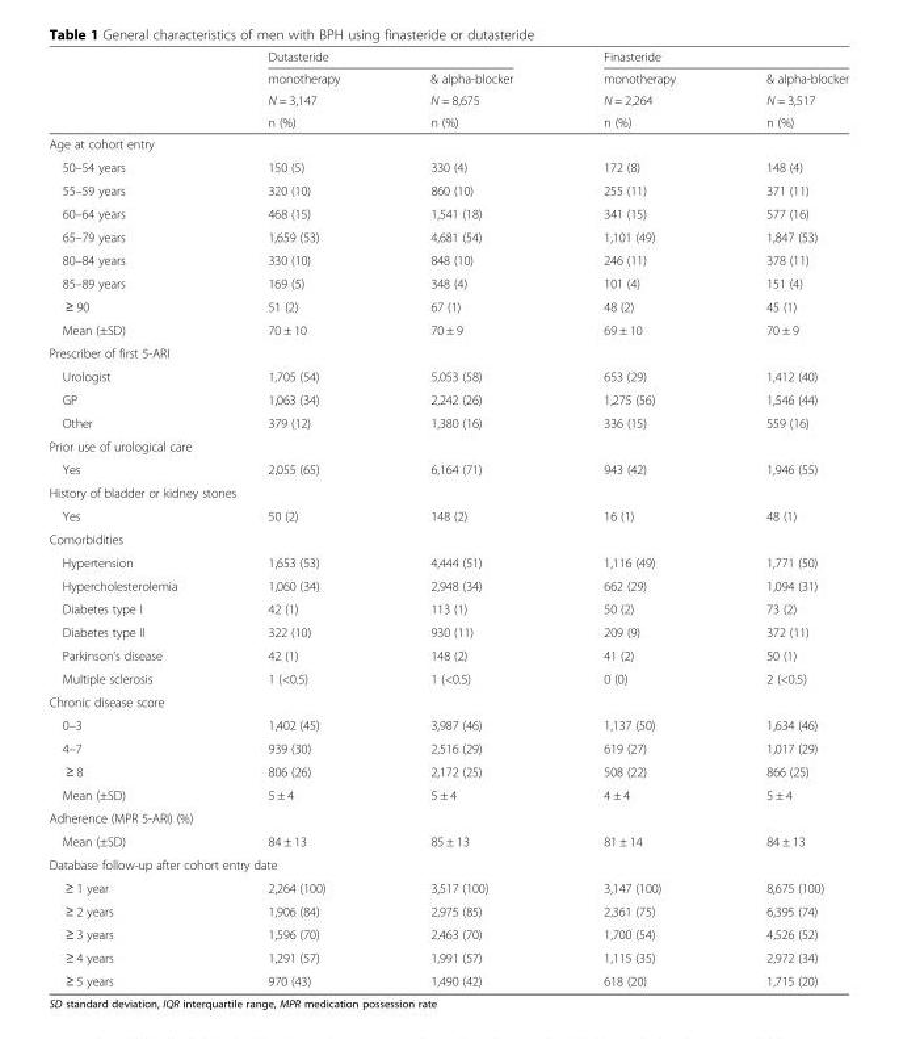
<table><thead><tr><td rowspan="4"></td><td colspan="2">Dutasteride</td><td colspan="2">Finasteride</td></tr><tr><td rowspan="3">monotherapy N = 3,147 n (%)</td><td rowspan="3">&amp; alpha-blocker N = 8,675 n (%)</td><td rowspan="3">monotherapy N = 2,264 n (%)</td><td rowspan="3">&amp; alpha-blocker N = 3,517 n (%)</td></tr><tr></tr><tr></tr></thead><tbody><tr><td colspan="5">Age at cohort entry</td></tr><tr><td>50–54 years</td><td>150 (5)</td><td>330 (4)</td><td>172 (8)</td><td>148 (4)</td></tr><tr><td>55–59 years</td><td>320 (10)</td><td>860 (10)</td><td>255 (11)</td><td>371 (11)</td></tr><tr><td>60–64 years</td><td>468 (15)</td><td>1,541 (18)</td><td>341 (15)</td><td>577 (16)</td></tr><tr><td>65–79 years</td><td>1,659 (53)</td><td>4,681 (54)</td><td>1,101 (49)</td><td>1,847 (53)</td></tr><tr><td>80–84 years</td><td>330 (10)</td><td>848 (10)</td><td>246 (11)</td><td>378 (11)</td></tr><tr><td>85–89 years</td><td>169 (5)</td><td>348 (4)</td><td>101 (4)</td><td>151 (4)</td></tr><tr><td>≥ 90</td><td>51 (2)</td><td>67 (1)</td><td>48 (2)</td><td>45 (1)</td></tr><tr><td>Mean (±SD)</td><td>70 ± 10</td><td>70 ± 9</td><td>69 ± 10</td><td>70 ± 9</td></tr><tr><td colspan="5">Prescriber of first 5-ARI</td></tr><tr><td>Urologist</td><td>1,705 (54)</td><td>5,053 (58)</td><td>653 (29)</td><td>1,412 (40)</td></tr><tr><td>GP</td><td>1,063 (34)</td><td>2,242 (26)</td><td>1,275 (56)</td><td>1,546 (44)</td></tr><tr><td>Other</td><td>379 (12)</td><td>1,380 (16)</td><td>336 (15)</td><td>559 (16)</td></tr><tr><td colspan="5">Prior use of urological care</td></tr><tr><td>Yes</td><td>2,055 (65)</td><td>6,164 (71)</td><td>943 (42)</td><td>1,946 (55)</td></tr><tr><td colspan="5">History of bladder or kidney stones</td></tr><tr><td>Yes</td><td>50 (2)</td><td>148 (2)</td><td>16 (1)</td><td>48 (1)</td></tr><tr><td colspan="5">Comorbidities</td></tr><tr><td>Hypertension</td><td>1,653 (53)</td><td>4,444 (51)</td><td>1,116 (49)</td><td>1,771 (50)</td></tr><tr><td>Hypercholesterolemia</td><td>1,060 (34)</td><td>2,948 (34)</td><td>662 (29)</td><td>1,094 (31)</td></tr><tr><td>Diabetes type I</td><td>42 (1)</td><td>113 (1)</td><td>50 (2)</td><td>73 (2)</td></tr><tr><td>Diabetes type II</td><td>322 (10)</td><td>930 (11)</td><td>209 (9)</td><td>372 (11)</td></tr><tr><td>Parkinson’s disease</td><td>42 (1)</td><td>148 (2)</td><td>41 (2)</td><td>50 (1)</td></tr><tr><td>Multiple sclerosis</td><td>1 (&lt;0.5)</td><td>1 (&lt;0.5)</td><td>0 (0)</td><td>2 (&lt;0.5)</td></tr><tr><td colspan="5">Chronic disease score</td></tr><tr><td>0–3</td><td>1,402 (45)</td><td>3,987 (46)</td><td>1,137 (50)</td><td>1,634 (46)</td></tr><tr><td>4–7</td><td>939 (30)</td><td>2,516 (29)</td><td>619 (27)</td><td>1,017 (29)</td></tr><tr><td>≥ 8</td><td>806 (26)</td><td>2,172 (25)</td><td>508 (22)</td><td>866 (25)</td></tr><tr><td>Mean (±SD)</td><td>5 ± 4</td><td>5 ± 4</td><td>4 ± 4</td><td>5 ± 4</td></tr><tr><td colspan="5">Adherence (MPR 5-ARI) (%)</td></tr><tr><td>Mean (±SD)</td><td>84 ± 13</td><td>85 ± 13</td><td>81 ± 14</td><td>84 ± 13</td></tr><tr><td colspan="5">Database follow-up after cohort entry date</td></tr><tr><td>≥ 1 year</td><td>2,264 (100)</td><td>3,517 (100)</td><td>3,147 (100)</td><td>8,675 (100)</td></tr><tr><td>≥ 2 years</td><td>1,906 (84)</td><td>2,975 (85)</td><td>2,361 (75)</td><td>6,395 (74)</td></tr><tr><td>≥ 3 years</td><td>1,596 (70)</td><td>2,463 (70)</td><td>1,700 (54)</td><td>4,526 (52)</td></tr><tr><td>≥ 4 years</td><td>1,291 (57)</td><td>1,991 (57)</td><td>1,115 (35)</td><td>2,972 (34)</td></tr><tr><td>≥ 5 years</td><td>970 (43)</td><td>1,490 (42)</td><td>618 (20)</td><td>1,715 (20)</td></tr></tbody></table>